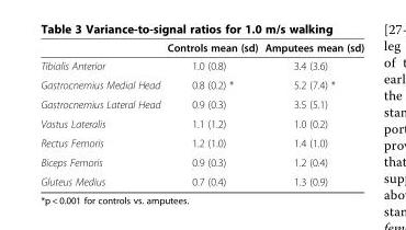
<table><thead><tr><td></td><td>Controls mean (sd)</td><td>Amputees mean (sd)</td></tr></thead><tbody><tr><td>Tibialis Anterior</td><td>1.0 (0.8)</td><td>3.4 (3.6)</td></tr><tr><td>Gastrocnemius Medial Head</td><td>0.8 (0.2) *</td><td>5.2 (7.4) *</td></tr><tr><td>Gastrocnemius Lateral Head</td><td>0.9 (0.3)</td><td>3.5 (5.1)</td></tr><tr><td>Vastus Lateralis</td><td>1.1 (1.2)</td><td>1.0 (0.2)</td></tr><tr><td>Rectus Femoris</td><td>1.2 (1.0)</td><td>1.4 (1.0)</td></tr><tr><td>Biceps Femoris</td><td>0.9 (0.3)</td><td>1.2 (0.4)</td></tr><tr><td>Gluteus Medius</td><td>0.7 (0.4)</td><td>1.3 (0.9)</td></tr></tbody></table>